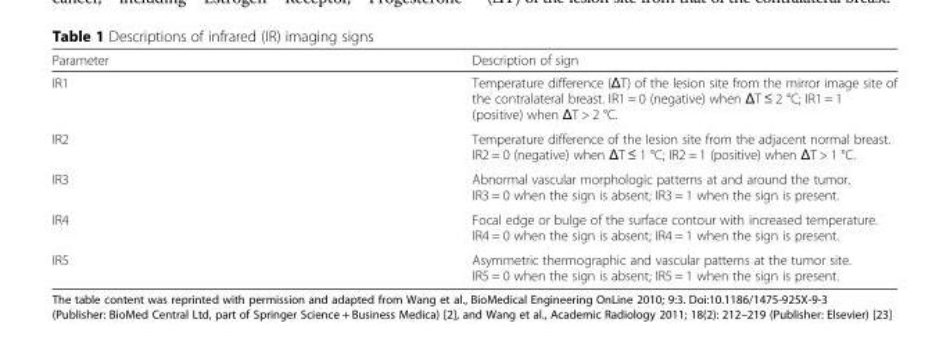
<table><thead><tr><td>Parameter</td><td>Description of sign</td></tr></thead><tbody><tr><td>IR1</td><td>Temperature difference (ΔT) of the lesion site from the mirror image site of the contralateral breast. IR1 = 0 (negative) when ΔT ≤ 2 °C; IR1 = 1 (positive) when ΔT &gt; 2 °C.</td></tr><tr><td>IR2</td><td>Temperature difference of the lesion site from the adjacent normal breast. IR2 = 0 (negative) when ΔT ≤ 1 °C; IR2 = 1 (positive) when ΔT &gt; 1 °C.</td></tr><tr><td>IR3</td><td>Abnormal vascular morphologic patterns at and around the tumor. IR3 = 0 when the sign is absent; IR3 = 1 when the sign is present.</td></tr><tr><td>IR4</td><td>Focal edge or bulge of the surface contour with increased temperature. IR4 = 0 when the sign is absent; IR4 = 1 when the sign is present.</td></tr><tr><td>IR5</td><td>Asymmetric thermographic and vascular patterns at the tumor site. IR5 = 0 when the sign is absent; IR5 = 1 when the sign is present.</td></tr></tbody></table>